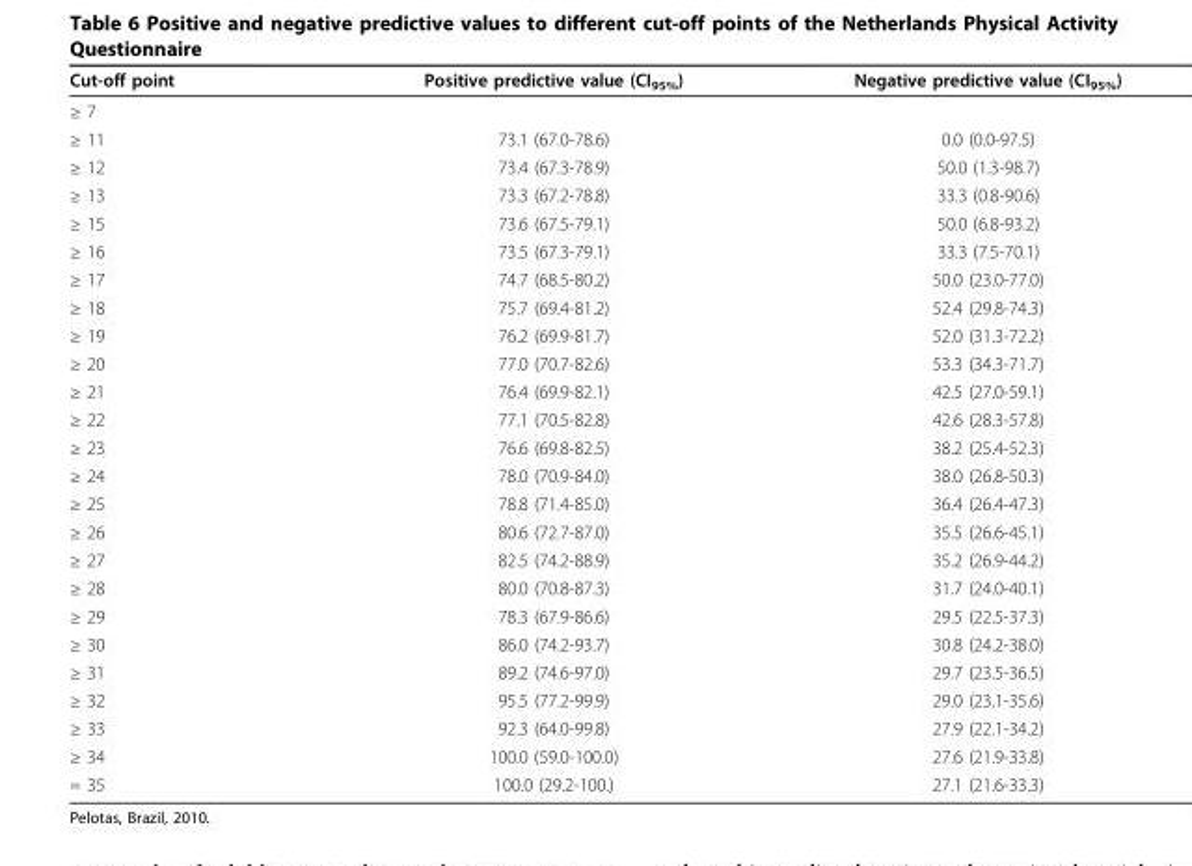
<table><thead><tr><td>Cut-off point</td><td>Positive predictive value (CI<sub>95%</sub>)</td><td>Negative predictive value (CI<sub>95%</sub>)</td></tr></thead><tbody><tr><td colspan="3">≥ 7</td></tr><tr><td>≥ 11</td><td>73.1 (67.0-78.6)</td><td>0.0 (0.0-97.5)</td></tr><tr><td>≥ 12</td><td>73.4 (67.3-78.9)</td><td>50.0 (1.3-98.7)</td></tr><tr><td>≥ 13</td><td>73.3 (67.2-78.8)</td><td>33.3 (0.8-90.6)</td></tr><tr><td>≥ 15</td><td>73.6 (67.5-79.1)</td><td>50.0 (6.8-93.2)</td></tr><tr><td>≥ 16</td><td>73.5 (67.3-79.1)</td><td>33.3 (7.5-70.1)</td></tr><tr><td>≥ 17</td><td>74.7 (68.5-80.2)</td><td>50.0 (23.0-77.0)</td></tr><tr><td>≥ 18</td><td>75.7 (69.4-81.2)</td><td>52.4 (29.8-74.3)</td></tr><tr><td>≥ 19</td><td>76.2 (69.9-81.7)</td><td>52.0 (31.3-72.2)</td></tr><tr><td>≥ 20</td><td>77.0 (70.7-82.6)</td><td>53.3 (34.3-71.7)</td></tr><tr><td>≥ 21</td><td>76.4 (69.9-82.1)</td><td>42.5 (27.0-59.1)</td></tr><tr><td>≥ 22</td><td>77.1 (70.5-82.8)</td><td>42.6 (28.3-57.8)</td></tr><tr><td>≥ 23</td><td>76.6 (69.8-82.5)</td><td>38.2 (25.4-52.3)</td></tr><tr><td>≥ 24</td><td>78.0 (70.9-84.0)</td><td>38.0 (26.8-50.3)</td></tr><tr><td>≥ 25</td><td>78.8 (71.4-85.0)</td><td>36.4 (26.4-47.3)</td></tr><tr><td>≥ 26</td><td>80.6 (72.7-87.0)</td><td>35.5 (26.6-45.1)</td></tr><tr><td>≥ 27</td><td>82.5 (74.2-88.9)</td><td>35.2 (26.9-44.2)</td></tr><tr><td>≥ 28</td><td>80.0 (70.8-87.3)</td><td>31.7 (24.0-40.1)</td></tr><tr><td>≥ 29</td><td>78.3 (67.9-86.6)</td><td>29.5 (22.5-37.3)</td></tr><tr><td>≥ 30</td><td>86.0 (74.2-93.7)</td><td>30.8 (24.2-38.0)</td></tr><tr><td>≥ 31</td><td>89.2 (74.6-97.0)</td><td>29.7 (23.5-36.5)</td></tr><tr><td>≥ 32</td><td>95.5 (77.2-99.9)</td><td>29.0 (23.1-35.6)</td></tr><tr><td>≥ 33</td><td>92.3 (64.0-99.8)</td><td>27.9 (22.1-34.2)</td></tr><tr><td>≥ 34</td><td>100.0 (59.0-100.0)</td><td>27.6 (21.9-33.8)</td></tr><tr><td>= 35</td><td>100.0 (29.2-100.)</td><td>27.1 (21.6-33.3)</td></tr></tbody></table>